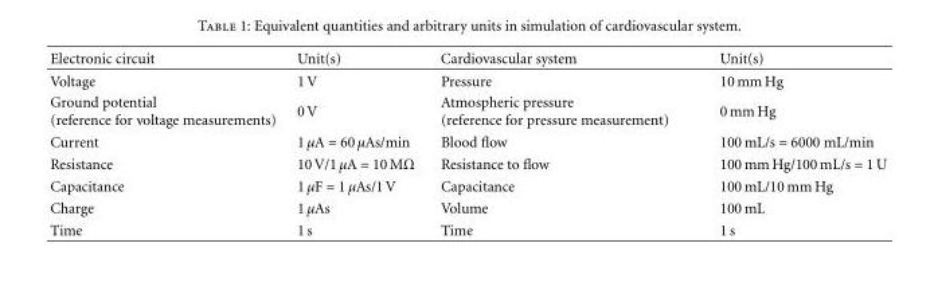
<table><thead><tr><td>Electronic circuit</td><td>Unit(s)</td><td>Cardiovascular system</td><td>Unit(s)</td></tr></thead><tbody><tr><td>Voltage</td><td>1 V</td><td>Pressure</td><td>10 mm Hg</td></tr><tr><td>Ground potential (reference for voltage measurements)</td><td>0 V</td><td>Atmospheric pressure (reference for pressure measurement)</td><td>0 mm Hg</td></tr><tr><td>Current</td><td>1 µA = 60 µAs/min</td><td>Blood flow</td><td>100 mL/s = 6000 mL/min</td></tr><tr><td>Resistance</td><td>10 V/1 µA = 10 MΩ</td><td>Resistance to flow</td><td>100 mm Hg/100 mL/s = 1 U</td></tr><tr><td>Capacitance</td><td>1 µF = 1 µAs/1 V</td><td>Capacitance</td><td>100 mL/10 mm Hg</td></tr><tr><td>Charge</td><td>1 µAs</td><td>Volume</td><td>100 mL</td></tr><tr><td>Time</td><td>1 s</td><td>Time</td><td>1 s</td></tr></tbody></table>